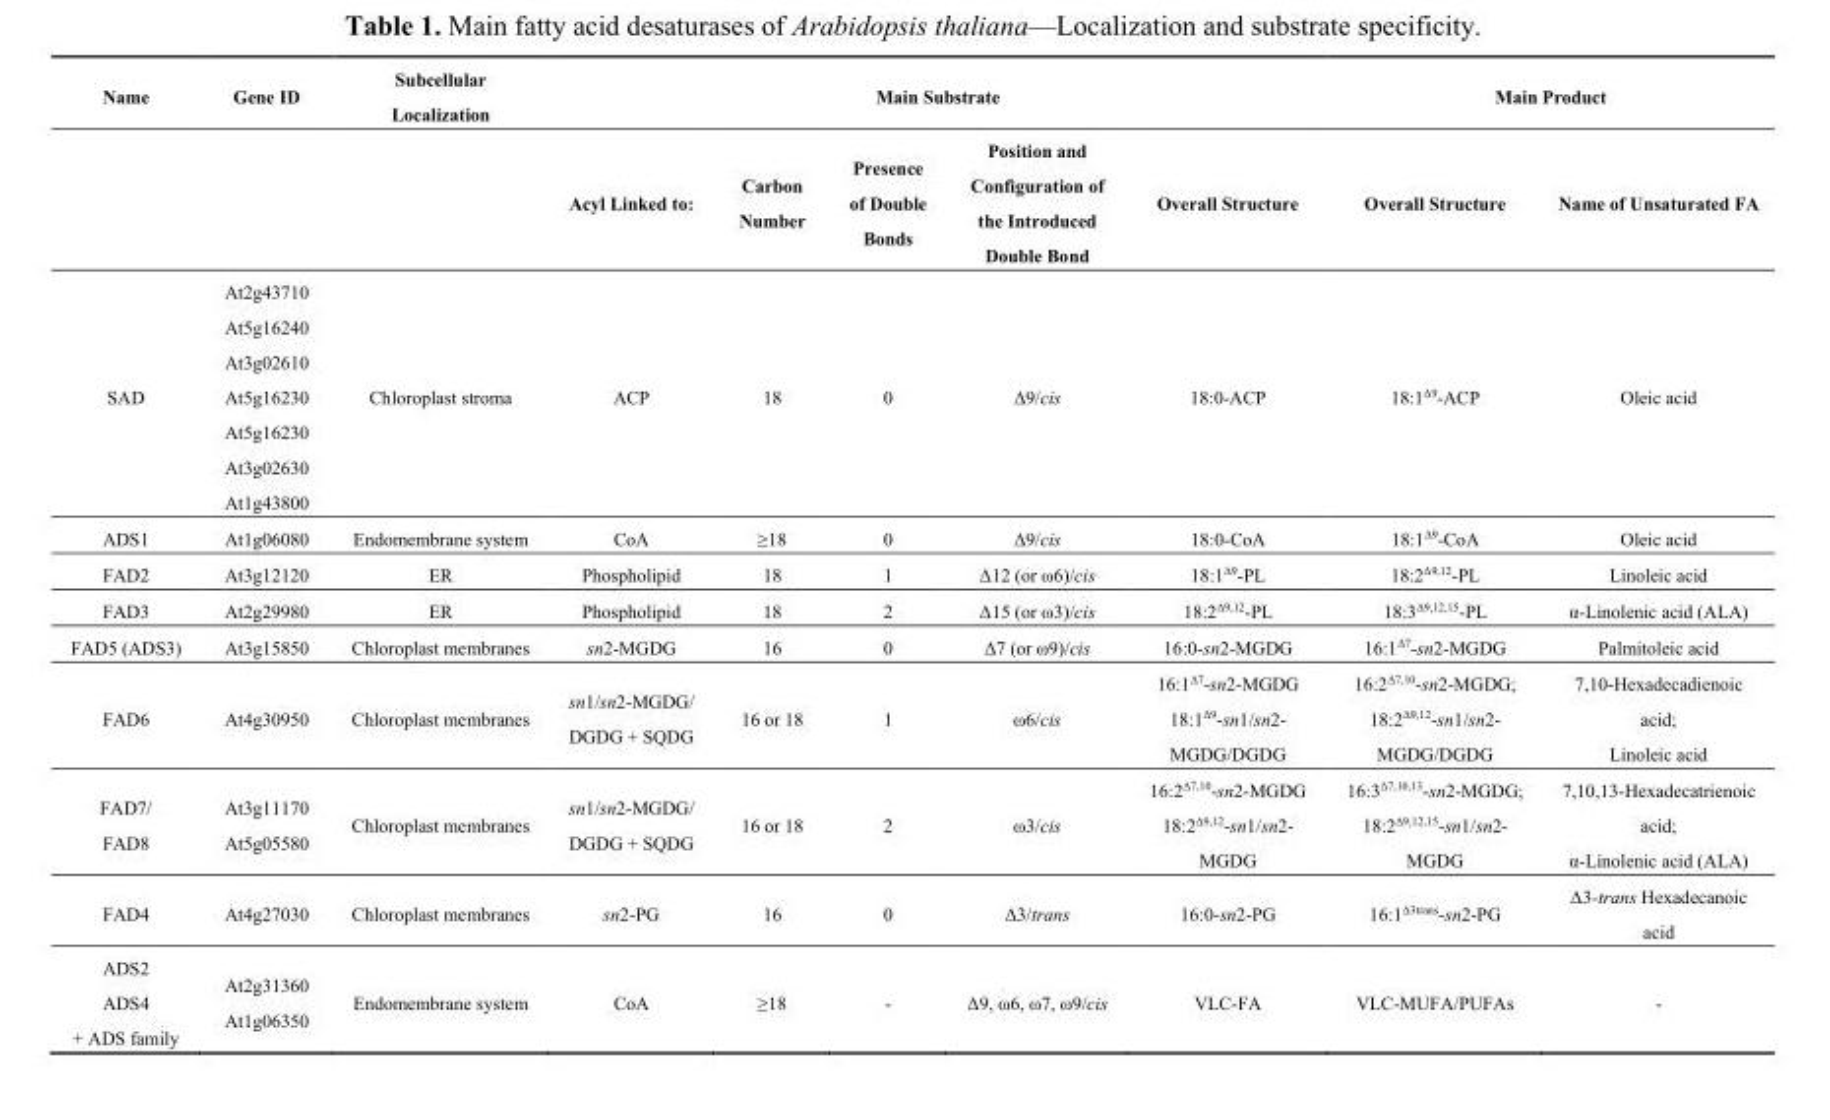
<table><thead><tr><td rowspan="2">Name</td><td rowspan="2">Gene ID</td><td rowspan="2">Subcellular Localization</td><td colspan="5">Main Substrate</td><td colspan="2">Main Product</td></tr><tr><td>Acyl Linked to:</td><td>Carbon Number</td><td>Presence of Double Bonds</td><td>Position and Configuration of the Introduced Double Bond</td><td>Overall Structure</td><td>Overall Structure</td><td>Name of Unsaturated FA</td></tr></thead><tbody><tr><td>SAD</td><td>At2g43710 At5g16240 At3g02610 At5g16230 At5g16230 At3g02630 At1g43800</td><td>Chloroplast stroma</td><td>ACP</td><td>18</td><td>0</td><td>Δ9/cis</td><td>18:0-ACP</td><td>18:1<sup>Δ9</sup>-ACP</td><td>Oleic acid</td></tr><tr><td>ADS1</td><td>At1g06080</td><td>Endomembrane system</td><td>CoA</td><td>≥18</td><td>0</td><td>Δ9/cis</td><td>18:0-CoA</td><td>18:1<sup>Δ9</sup>-CoA</td><td>Oleic acid</td></tr><tr><td>FAD2</td><td>At3g12120</td><td>ER</td><td>Phospholipid</td><td>18</td><td>1</td><td>Δ12 (or ω6)/cis</td><td>18:1<sup>Δ9</sup>-PL</td><td>18:2<sup>Δ9,12</sup>-PL</td><td>Linoleic acid</td></tr><tr><td>FAD3</td><td>At2g29980</td><td>ER</td><td>Phospholipid</td><td>18</td><td>2</td><td>Δ15 (or ω3)/cis</td><td>18:2<sup>Δ9,12</sup>-PL</td><td>18:3<sup>Δ9,12,15</sup>-PL</td><td>α-Linolenic acid (ALA)</td></tr><tr><td>FAD5 (ADS3)</td><td>At3g15850</td><td>Chloroplast membranes</td><td>sn2-MGDG</td><td>16</td><td>0</td><td>Δ7 (or ω9)/cis</td><td>16:0-sn2-MGDG</td><td>16:1<sup>Δ7</sup>-sn2-MGDG</td><td>Palmitoleic acid</td></tr><tr><td>FAD6</td><td>At4g30950</td><td>Chloroplast membranes</td><td>sn1/sn2-MGDG/ DGDG + SQDG</td><td>16 or 18</td><td>1</td><td>ω6/cis</td><td>16:1<sup>Δ7</sup>-sn2-MGDG 18:1<sup>Δ9</sup>-sn1/sn2- MGDG/DGDG</td><td>16:2<sup>Δ7,10</sup>-sn2-MGDG; 18:2<sup>Δ9,12</sup>-sn1/sn2- MGDG/DGDG</td><td>7,10-Hexadecadienoic acid; Linoleic acid</td></tr><tr><td>FAD7/ FAD8</td><td>At3g11170 At5g05580</td><td>Chloroplast membranes</td><td>sn1/sn2-MGDG/ DGDG + SQDG</td><td>16 or 18</td><td>2</td><td>ω3/cis</td><td>16:2<sup>Δ7,10</sup>-sn2-MGDG 18:2<sup>Δ9,12</sup>-sn1/sn2- MGDG</td><td>16:3<sup>Δ7,10,13</sup>-sn2-MGDG; 18:2<sup>Δ9,12,15</sup>-sn1/sn2- MGDG</td><td>7,10,13-Hexadecatrienoic acid; α-Linolenic acid (ALA)</td></tr><tr><td>FAD4</td><td>At4g27030</td><td>Chloroplast membranes</td><td>sn2-PG</td><td>16</td><td>0</td><td>Δ3/trans</td><td>16:0-sn2-PG</td><td>16:1<sup>Δ3trans</sup>-sn2-PG</td><td>Δ3-trans Hexadecanoic acid</td></tr><tr><td>ADS2 ADS4 + ADS family</td><td>At2g31360 At1g06350</td><td>Endomembrane system</td><td>CoA</td><td>≥18</td><td>-</td><td>Δ9, ω6, ω7, ω9/cis</td><td>VLC-FA</td><td>VLC-MUFA/PUFAs</td><td>-</td></tr></tbody></table>